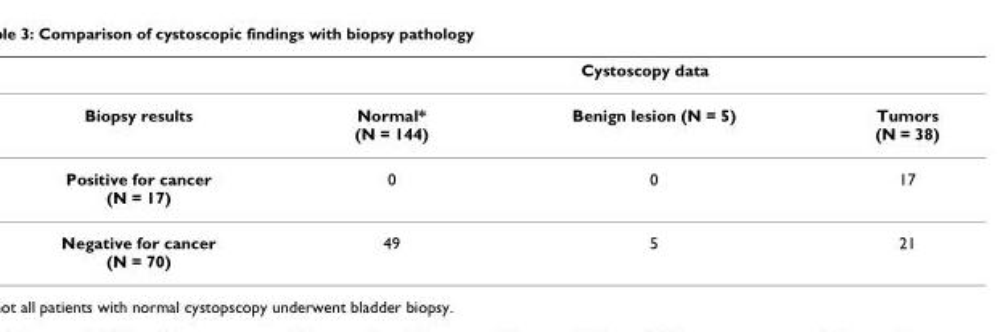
<table><thead><tr><td rowspan="2">Biopsy results</td><td colspan="3">Cystoscopy data</td></tr><tr><td>Normal* (N = 144)</td><td>Benign lesion (N = 5)</td><td>Tumors (N = 38)</td></tr></thead><tbody><tr><td>Positive for cancer (N = 17)</td><td>0</td><td>0</td><td>17</td></tr><tr><td>Negative for cancer (N = 70)</td><td>49</td><td>5</td><td>21</td></tr></tbody></table>